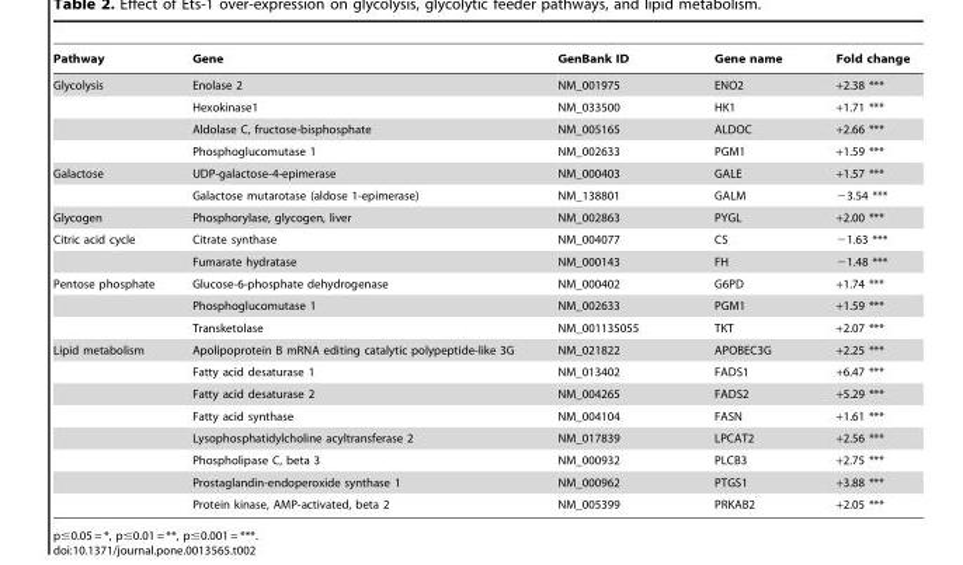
<table><thead><tr><td>Pathway</td><td>Gene</td><td>GenBank ID</td><td>Gene name</td><td>Fold change</td></tr></thead><tbody><tr><td rowspan="4">Glycolysis</td><td>Enolase 2</td><td>NM_001975</td><td>ENO2</td><td>+2.38 ***</td></tr><tr><td>Hexokinase1</td><td>NM_033500</td><td>HK1</td><td>+1.71 ***</td></tr><tr><td>Aldolase C, fructose-bisphosphate</td><td>NM_005165</td><td>ALDOC</td><td>+2.66 ***</td></tr><tr><td>Phosphoglucomutase 1</td><td>NM_002633</td><td>PGM1</td><td>+1.59 ***</td></tr><tr><td rowspan="2">Galactose</td><td>UDP-galactose-4-epimerase</td><td>NM_000403</td><td>GALE</td><td>+1.57 ***</td></tr><tr><td>Galactose mutarotase (aldose 1-epimerase)</td><td>NM_138801</td><td>GALM</td><td>−3.54 ***</td></tr><tr><td>Glycogen</td><td>Phosphorylase, glycogen, liver</td><td>NM_002863</td><td>PYGL</td><td>+2.00 ***</td></tr><tr><td rowspan="2">Citric acid cycle</td><td>Citrate synthase</td><td>NM_004077</td><td>CS</td><td>−1.63 ***</td></tr><tr><td>Fumarate hydratase</td><td>NM_000143</td><td>FH</td><td>−1.48 ***</td></tr><tr><td rowspan="3">Pentose phosphate</td><td>Glucose-6-phosphate dehydrogenase</td><td>NM_000402</td><td>G6PD</td><td>+1.74 ***</td></tr><tr><td>Phosphoglucomutase 1</td><td>NM_002633</td><td>PGM1</td><td>+1.59 ***</td></tr><tr><td>Transketolase</td><td>NM_001135055</td><td>TKT</td><td>+2.07 ***</td></tr><tr><td rowspan="8">Lipid metabolism</td><td>Apolipoprotein B mRNA editing catalytic polypeptide-like 3G</td><td>NM_021822</td><td>APOBEC3G</td><td>+2.25 ***</td></tr><tr><td>Fatty acid desaturase 1</td><td>NM_013402</td><td>FADS1</td><td>+6.47 ***</td></tr><tr><td>Fatty acid desaturase 2</td><td>NM_004265</td><td>FADS2</td><td>+5.29 ***</td></tr><tr><td>Fatty acid synthase</td><td>NM_004104</td><td>FASN</td><td>+1.61 ***</td></tr><tr><td>Lysophosphatidylcholine acyltransferase 2</td><td>NM_017839</td><td>LPCAT2</td><td>+2.56 ***</td></tr><tr><td>Phospholipase C, beta 3</td><td>NM_000932</td><td>PLCB3</td><td>+2.75 ***</td></tr><tr><td>Prostaglandin-endoperoxide synthase 1</td><td>NM_000962</td><td>PTGS1</td><td>+3.88 ***</td></tr><tr><td>Protein kinase, AMP-activated, beta 2</td><td>NM_005399</td><td>PRKAB2</td><td>+2.05 ***</td></tr></tbody></table>